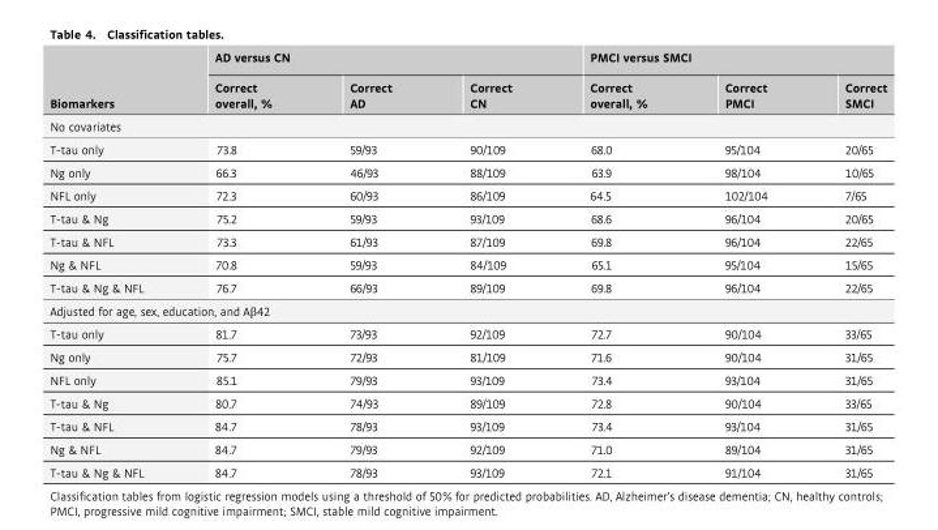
<table><thead><tr><td rowspan="2">Biomarkers</td><td colspan="3">AD versus CN</td><td colspan="3">PMCI versus SMCI</td></tr><tr><td>Correct overall, %</td><td>Correct AD</td><td>Correct CN</td><td>Correct overall, %</td><td>Correct PMCI</td><td>Correct SMCI</td></tr></thead><tbody><tr><td colspan="7">No covariates</td></tr><tr><td>T-tau only</td><td>73.8</td><td>59/93</td><td>90/109</td><td>68.0</td><td>95/104</td><td>20/65</td></tr><tr><td>Ng only</td><td>66.3</td><td>46/93</td><td>88/109</td><td>63.9</td><td>98/104</td><td>10/65</td></tr><tr><td>NFL only</td><td>72.3</td><td>60/93</td><td>86/109</td><td>64.5</td><td>102/104</td><td>7/65</td></tr><tr><td>T-tau &amp; Ng</td><td>75.2</td><td>59/93</td><td>93/109</td><td>68.6</td><td>96/104</td><td>20/65</td></tr><tr><td>T-tau &amp; NFL</td><td>73.3</td><td>61/93</td><td>87/109</td><td>69.8</td><td>96/104</td><td>22/65</td></tr><tr><td>Ng &amp; NFL</td><td>70.8</td><td>59/93</td><td>84/109</td><td>65.1</td><td>95/104</td><td>15/65</td></tr><tr><td>T-tau &amp; Ng &amp; NFL</td><td>76.7</td><td>66/93</td><td>89/109</td><td>69.8</td><td>96/104</td><td>22/65</td></tr><tr><td colspan="7">Adjusted for age, sex, education, and Aβ42</td></tr><tr><td>T-tau only</td><td>81.7</td><td>73/93</td><td>92/109</td><td>72.7</td><td>90/104</td><td>33/65</td></tr><tr><td>Ng only</td><td>75.7</td><td>72/93</td><td>81/109</td><td>71.6</td><td>90/104</td><td>31/65</td></tr><tr><td>NFL only</td><td>85.1</td><td>79/93</td><td>93/109</td><td>73.4</td><td>93/104</td><td>31/65</td></tr><tr><td>T-tau &amp; Ng</td><td>80.7</td><td>74/93</td><td>89/109</td><td>72.8</td><td>90/104</td><td>33/65</td></tr><tr><td>T-tau &amp; NFL</td><td>84.7</td><td>78/93</td><td>93/109</td><td>73.4</td><td>93/104</td><td>31/65</td></tr><tr><td>Ng &amp; NFL</td><td>84.7</td><td>79/93</td><td>92/109</td><td>71.0</td><td>89/104</td><td>31/65</td></tr><tr><td>T-tau &amp; Ng &amp; NFL</td><td>84.7</td><td>78/93</td><td>93/109</td><td>72.1</td><td>91/104</td><td>31/65</td></tr></tbody></table>